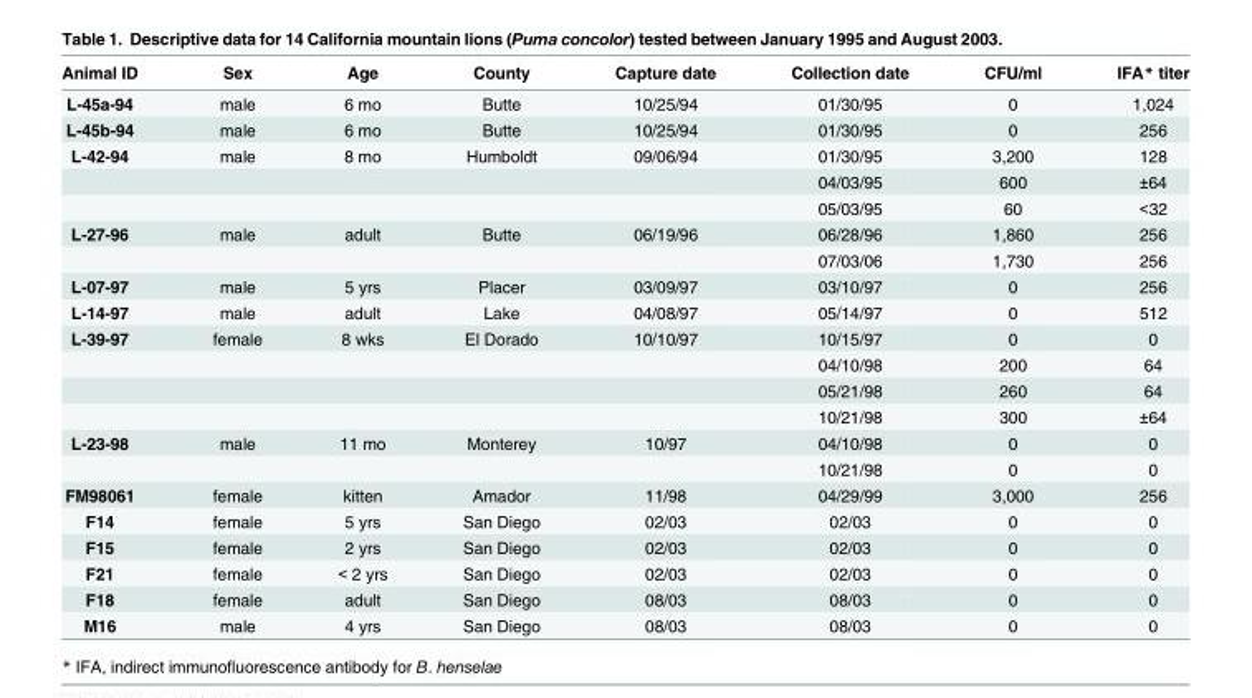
<table><thead><tr><td>Animal ID</td><td>Sex</td><td>Age</td><td>County</td><td>Capture date</td><td>Collection date</td><td>CFU/ml</td><td>IFA* titer</td></tr></thead><tbody><tr><td>L-45a-94</td><td>male</td><td>6 mo</td><td>Butte</td><td>10/25/94</td><td>01/30/95</td><td>0</td><td>1,024</td></tr><tr><td>L-45b-94</td><td>male</td><td>6 mo</td><td>Butte</td><td>10/25/94</td><td>01/30/95</td><td>0</td><td>256</td></tr><tr><td rowspan="3">L-42-94</td><td>male</td><td>8 mo</td><td>Humboldt</td><td>09/06/94</td><td>01/30/95</td><td>3,200</td><td>128</td></tr><tr><td></td><td></td><td></td><td></td><td>04/03/95</td><td>600</td><td>±64</td></tr><tr><td></td><td></td><td></td><td></td><td>05/03/95</td><td>60</td><td>&lt;32</td></tr><tr><td rowspan="2">L-27-96</td><td>male</td><td>adult</td><td>Butte</td><td>06/19/96</td><td>06/28/96</td><td>1,860</td><td>256</td></tr><tr><td></td><td></td><td></td><td></td><td>07/03/06</td><td>1,730</td><td>256</td></tr><tr><td>L-07-97</td><td>male</td><td>5 yrs</td><td>Placer</td><td>03/09/97</td><td>03/10/97</td><td>0</td><td>256</td></tr><tr><td>L-14-97</td><td>male</td><td>adult</td><td>Lake</td><td>04/08/97</td><td>05/14/97</td><td>0</td><td>512</td></tr><tr><td rowspan="4">L-39-97</td><td>female</td><td>8 wks</td><td>El Dorado</td><td>10/10/97</td><td>10/15/97</td><td>0</td><td>0</td></tr><tr><td></td><td></td><td></td><td></td><td>04/10/98</td><td>200</td><td>64</td></tr><tr><td></td><td></td><td></td><td></td><td>05/21/98</td><td>260</td><td>64</td></tr><tr><td></td><td></td><td></td><td></td><td>10/21/98</td><td>300</td><td>±64</td></tr><tr><td rowspan="2">L-23-98</td><td>male</td><td>11 mo</td><td>Monterey</td><td>10/97</td><td>04/10/98</td><td>0</td><td>0</td></tr><tr><td></td><td></td><td></td><td></td><td>10/21/98</td><td>0</td><td>0</td></tr><tr><td>FM98061</td><td>female</td><td>kitten</td><td>Amador</td><td>11/98</td><td>04/29/99</td><td>3,000</td><td>256</td></tr><tr><td>F14</td><td>female</td><td>5 yrs</td><td>San Diego</td><td>02/03</td><td>02/03</td><td>0</td><td>0</td></tr><tr><td>F15</td><td>female</td><td>2 yrs</td><td>San Diego</td><td>02/03</td><td>02/03</td><td>0</td><td>0</td></tr><tr><td>F21</td><td>female</td><td>&lt; 2 yrs</td><td>San Diego</td><td>02/03</td><td>02/03</td><td>0</td><td>0</td></tr><tr><td>F18</td><td>female</td><td>adult</td><td>San Diego</td><td>08/03</td><td>08/03</td><td>0</td><td>0</td></tr><tr><td>M16</td><td>male</td><td>4 yrs</td><td>San Diego</td><td>08/03</td><td>08/03</td><td>0</td><td>0</td></tr></tbody></table>